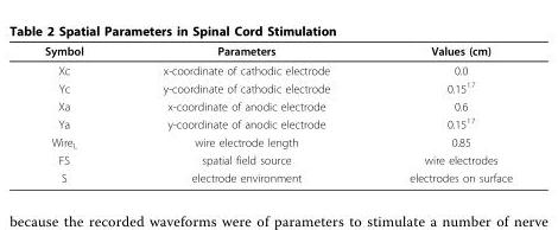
<table><thead><tr><td>Symbol</td><td>Parameters</td><td>Values (cm)</td></tr></thead><tbody><tr><td>Xc</td><td>x-coordinate of cathodic electrode</td><td>0.0</td></tr><tr><td>Yc</td><td>y-coordinate of cathodic electrode</td><td>0.15<sup>17</sup></td></tr><tr><td>Xa</td><td>x-coordinate of anodic electrode</td><td>0.6</td></tr><tr><td>Ya</td><td>y-coordinate of anodic electrode</td><td>0.15<sup>17</sup></td></tr><tr><td>Wire<sub>L</sub></td><td>wire electrode length</td><td>0.85</td></tr><tr><td>FS</td><td>spatial field source</td><td>wire electrodes</td></tr><tr><td>S</td><td>electrode environment</td><td>electrodes on surface</td></tr></tbody></table>